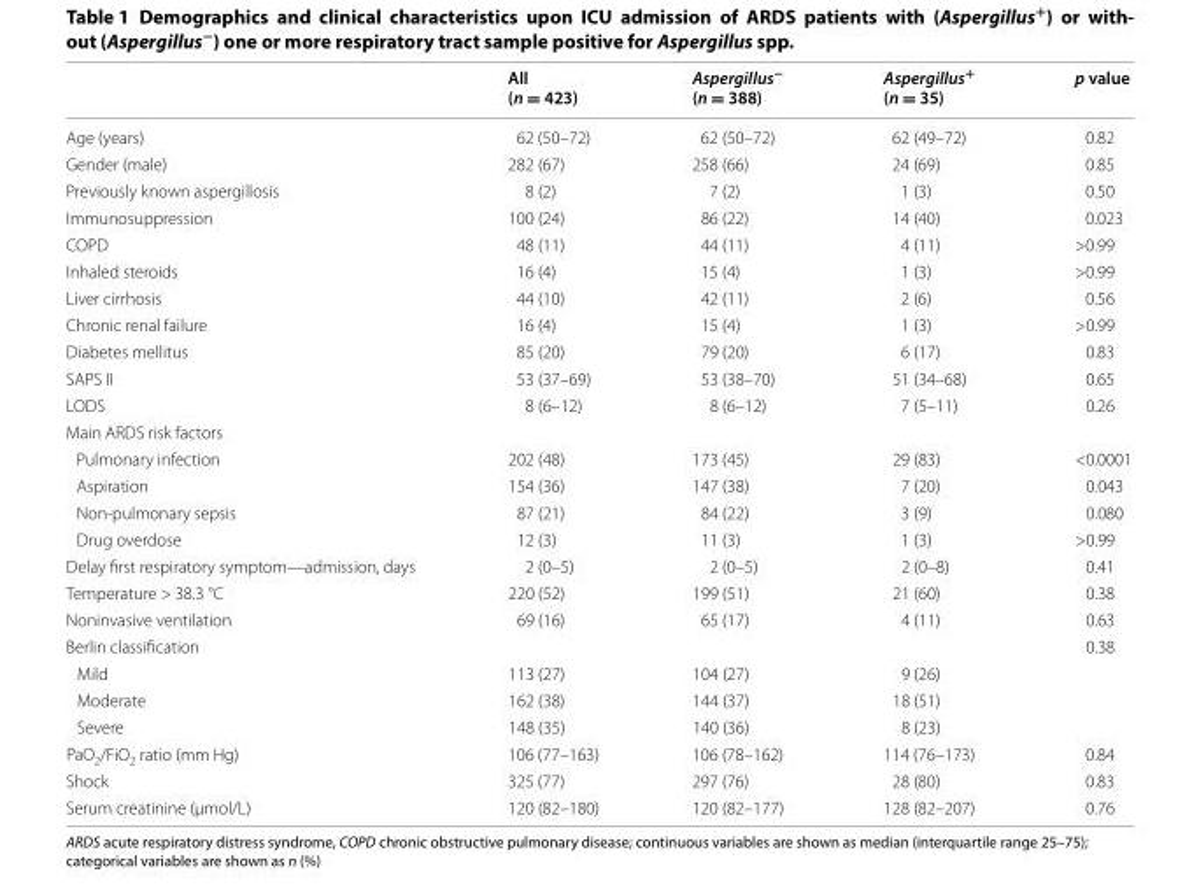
<table><thead><tr><td></td><td>All (n = 423)</td><td>Aspergillus<sup>−</sup> (n = 388)</td><td>Aspergillus<sup>+</sup> (n = 35)</td><td>p value</td></tr></thead><tbody><tr><td>Age (years)</td><td>62 (50–72)</td><td>62 (50–72)</td><td>62 (49–72)</td><td>0.82</td></tr><tr><td>Gender (male)</td><td>282 (67)</td><td>258 (66)</td><td>24 (69)</td><td>0.85</td></tr><tr><td>Previously known aspergillosis</td><td>8 (2)</td><td>7 (2)</td><td>1 (3)</td><td>0.50</td></tr><tr><td>Immunosuppression</td><td>100 (24)</td><td>86 (22)</td><td>14 (40)</td><td>0.023</td></tr><tr><td>COPD</td><td>48 (11)</td><td>44 (11)</td><td>4 (11)</td><td>&gt;0.99</td></tr><tr><td>Inhaled steroids</td><td>16 (4)</td><td>15 (4)</td><td>1 (3)</td><td>&gt;0.99</td></tr><tr><td>Liver cirrhosis</td><td>44 (10)</td><td>42 (11)</td><td>2 (6)</td><td>0.56</td></tr><tr><td>Chronic renal failure</td><td>16 (4)</td><td>15 (4)</td><td>1 (3)</td><td>&gt;0.99</td></tr><tr><td>Diabetes mellitus</td><td>85 (20)</td><td>79 (20)</td><td>6 (17)</td><td>0.83</td></tr><tr><td>SAPS II</td><td>53 (37–69)</td><td>53 (38–70)</td><td>51 (34–68)</td><td>0.65</td></tr><tr><td>LODS</td><td>8 (6–12)</td><td>8 (6–12)</td><td>7 (5–11)</td><td>0.26</td></tr><tr><td colspan="5">Main ARDS risk factors</td></tr><tr><td>Pulmonary infection</td><td>202 (48)</td><td>173 (45)</td><td>29 (83)</td><td>&lt;0.0001</td></tr><tr><td>Aspiration</td><td>154 (36)</td><td>147 (38)</td><td>7 (20)</td><td>0.043</td></tr><tr><td>Non‑pulmonary sepsis</td><td>87 (21)</td><td>84 (22)</td><td>3 (9)</td><td>0.080</td></tr><tr><td>Drug overdose</td><td>12 (3)</td><td>11 (3)</td><td>1 (3)</td><td>&gt;0.99</td></tr><tr><td>Delay first respiratory symptom—admission, days</td><td>2 (0–5)</td><td>2 (0–5)</td><td>2 (0–8)</td><td>0.41</td></tr><tr><td>Temperature &gt; 38.3 °C</td><td>220 (52)</td><td>199 (51)</td><td>21 (60)</td><td>0.38</td></tr><tr><td>Noninvasive ventilation</td><td>69 (16)</td><td>65 (17)</td><td>4 (11)</td><td>0.63</td></tr><tr><td>Berlin classification</td><td></td><td></td><td></td><td>0.38</td></tr><tr><td>Mild</td><td>113 (27)</td><td>104 (27)</td><td>9 (26)</td><td></td></tr><tr><td>Moderate</td><td>162 (38)</td><td>144 (37)</td><td>18 (51)</td><td></td></tr><tr><td>Severe</td><td>148 (35)</td><td>140 (36)</td><td>8 (23)</td><td></td></tr><tr><td>PaO<sub>2</sub>/FiO<sub>2</sub> ratio (mm Hg)</td><td>106 (77–163)</td><td>106 (78–162)</td><td>114 (76–173)</td><td>0.84</td></tr><tr><td>Shock</td><td>325 (77)</td><td>297 (76)</td><td>28 (80)</td><td>0.83</td></tr><tr><td>Serum creatinine (µmol/L)</td><td>120 (82–180)</td><td>120 (82–177)</td><td>128 (82–207)</td><td>0.76</td></tr></tbody></table>